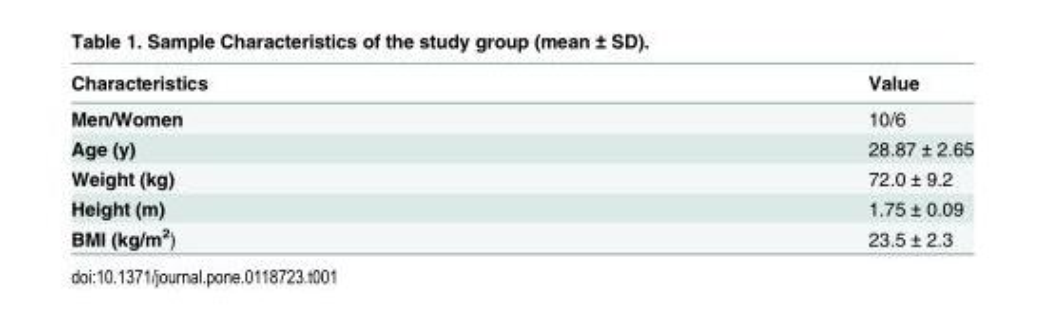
<table><thead><tr><td>Characteristics</td><td>Value</td></tr></thead><tbody><tr><td>Men/Women</td><td>10/6</td></tr><tr><td>Age (y)</td><td>28.87 ± 2.65</td></tr><tr><td>Weight (kg)</td><td>72.0 ± 9.2</td></tr><tr><td>Height (m)</td><td>1.75 ± 0.09</td></tr><tr><td>BMI (kg/m<sup>2</sup>)</td><td>23.5 ± 2.3</td></tr></tbody></table>